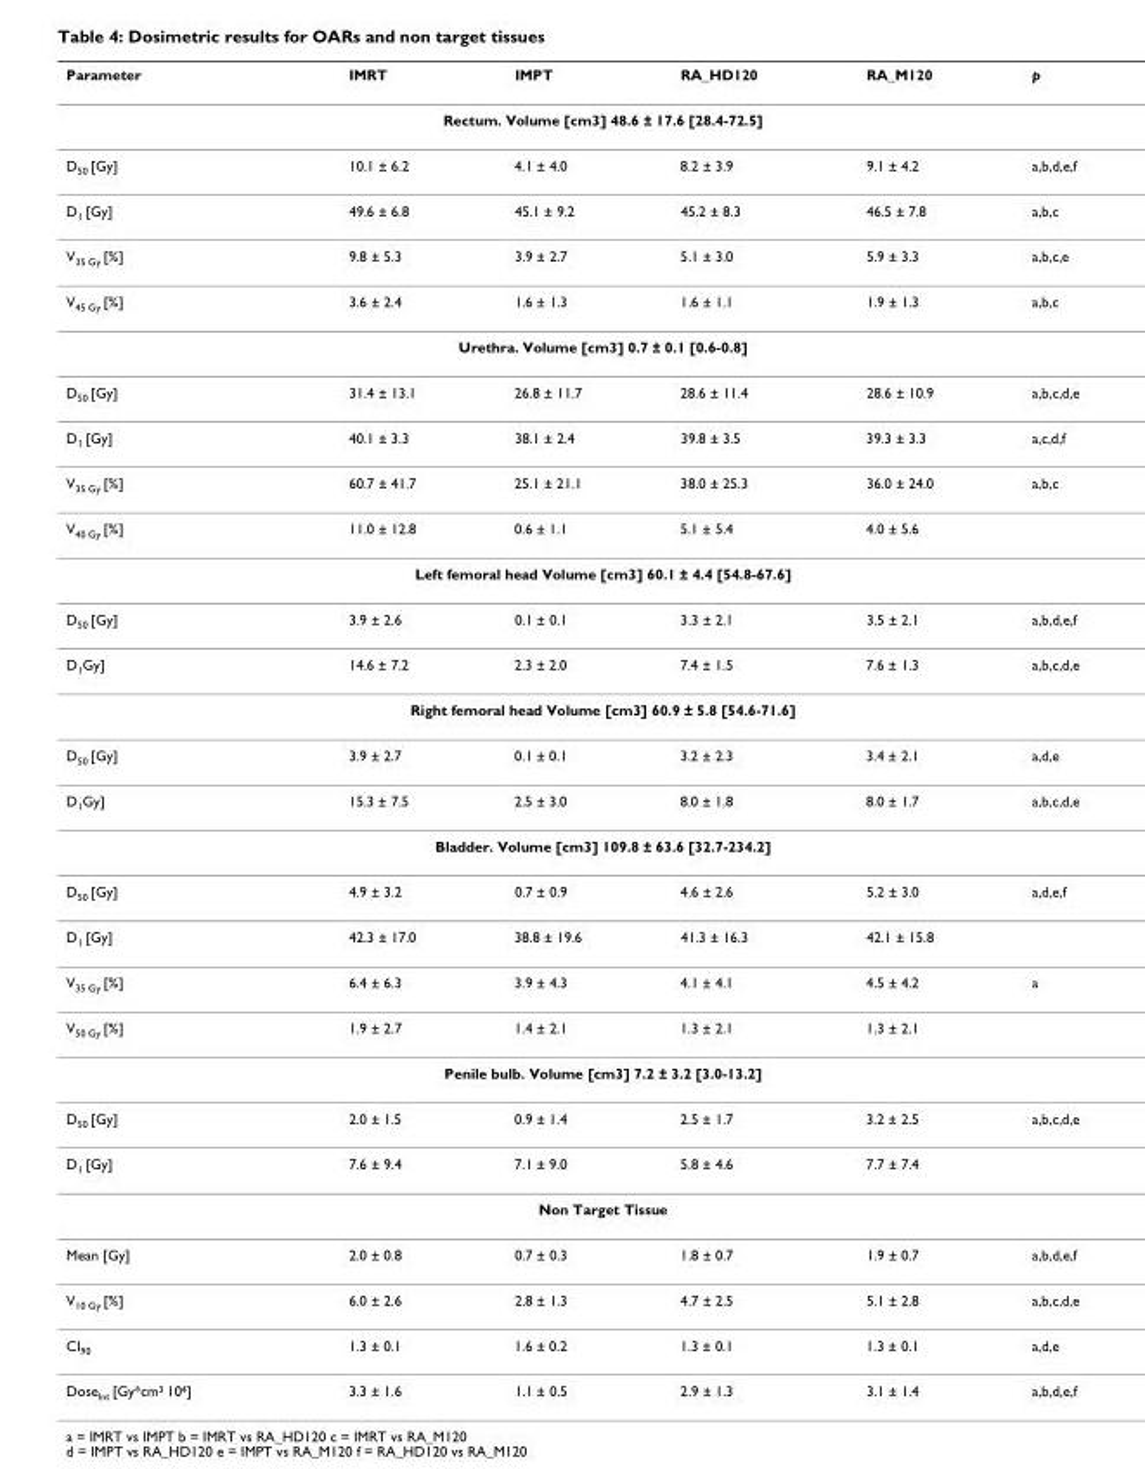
<table><thead><tr><td>Parameter</td><td>IMRT</td><td>IMPT</td><td>RA_HD120</td><td>RA_M120</td><td>p</td></tr></thead><tbody><tr><td colspan="6">Rectum. Volume [cm3] 48.6 ± 17.6 [28.4-72.5]</td></tr><tr><td>D<sub>50</sub> [Gy]</td><td>10.1 ± 6.2</td><td>4.1 ± 4.0</td><td>8.2 ± 3.9</td><td>9.1 ± 4.2</td><td>a,b,d,e,f</td></tr><tr><td>D<sub>1</sub> [Gy]</td><td>49.6 ± 6.8</td><td>45.1 ± 9.2</td><td>45.2 ± 8.3</td><td>46.5 ± 7.8</td><td>a,b,c</td></tr><tr><td>V<sub>35 Gy</sub> [%]</td><td>9.8 ± 5.3</td><td>3.9 ± 2.7</td><td>5.1 ± 3.0</td><td>5.9 ± 3.3</td><td>a,b,c,e</td></tr><tr><td>V<sub>45 Gy</sub> [%]</td><td>3.6 ± 2.4</td><td>1.6 ± 1.3</td><td>1.6 ± 1.1</td><td>1.9 ± 1.3</td><td>a,b,c</td></tr><tr><td colspan="6">Urethra. Volume [cm3] 0.7 ± 0.1 [0.6-0.8]</td></tr><tr><td>D<sub>50</sub> [Gy]</td><td>31.4 ± 13.1</td><td>26.8 ± 11.7</td><td>28.6 ± 11.4</td><td>28.6 ± 10.9</td><td>a,b,c,d,e</td></tr><tr><td>D<sub>1</sub> [Gy]</td><td>40.1 ± 3.3</td><td>38.1 ± 2.4</td><td>39.8 ± 3.5</td><td>39.3 ± 3.3</td><td>a,c,d,f</td></tr><tr><td>V<sub>35 Gy</sub> [%]</td><td>60.7 ± 41.7</td><td>25.1 ± 21.1</td><td>38.0 ± 25.3</td><td>36.0 ± 24.0</td><td>a,b,c</td></tr><tr><td>V<sub>40 Gy</sub> [%]</td><td>11.0 ± 12.8</td><td>0.6 ± 1.1</td><td>5.1 ± 5.4</td><td>4.0 ± 5.6</td><td></td></tr><tr><td colspan="6">Left femoral head Volume [cm3] 60.1 ± 4.4 [54.8-67.6]</td></tr><tr><td>D<sub>50</sub> [Gy]</td><td>3.9 ± 2.6</td><td>0.1 ± 0.1</td><td>3.3 ± 2.1</td><td>3.5 ± 2.1</td><td>a,b,d,e,f</td></tr><tr><td>D<sub>1</sub>Gy]</td><td>14.6 ± 7.2</td><td>2.3 ± 2.0</td><td>7.4 ± 1.5</td><td>7.6 ± 1.3</td><td>a,b,c,d,e</td></tr><tr><td colspan="6">Right femoral head Volume [cm3] 60.9 ± 5.8 [54.6-71.6]</td></tr><tr><td>D<sub>50</sub> [Gy]</td><td>3.9 ± 2.7</td><td>0.1 ± 0.1</td><td>3.2 ± 2.3</td><td>3.4 ± 2.1</td><td>a,d,e</td></tr><tr><td>D<sub>1</sub>Gy]</td><td>15.3 ± 7.5</td><td>2.5 ± 3.0</td><td>8.0 ± 1.8</td><td>8.0 ± 1.7</td><td>a,b,c,d,e</td></tr><tr><td colspan="6">Bladder. Volume [cm3] 109.8 ± 63.6 [32.7-234.2]</td></tr><tr><td>D<sub>50</sub> [Gy]</td><td>4.9 ± 3.2</td><td>0.7 ± 0.9</td><td>4.6 ± 2.6</td><td>5.2 ± 3.0</td><td>a,d,e,f</td></tr><tr><td>D<sub>1</sub> [Gy]</td><td>42.3 ± 17.0</td><td>38.8 ± 19.6</td><td>41.3 ± 16.3</td><td>42.1 ± 15.8</td><td></td></tr><tr><td>V<sub>35 Gy</sub> [%]</td><td>6.4 ± 6.3</td><td>3.9 ± 4.3</td><td>4.1 ± 4.1</td><td>4.5 ± 4.2</td><td>a</td></tr><tr><td>V<sub>50 Gy</sub> [%]</td><td>1.9 ± 2.7</td><td>1.4 ± 2.1</td><td>1.3 ± 2.1</td><td>1.3 ± 2.1</td><td></td></tr><tr><td colspan="6">Penile bulb. Volume [cm3] 7.2 ± 3.2 [3.0-13.2]</td></tr><tr><td>D<sub>50</sub> [Gy]</td><td>2.0 ± 1.5</td><td>0.9 ± 1.4</td><td>2.5 ± 1.7</td><td>3.2 ± 2.5</td><td>a,b,c,d,e</td></tr><tr><td>D<sub>1</sub> [Gy]</td><td>7.6 ± 9.4</td><td>7.1 ± 9.0</td><td>5.8 ± 4.6</td><td>7.7 ± 7.4</td><td></td></tr><tr><td colspan="6">Non Target Tissue</td></tr><tr><td>Mean [Gy]</td><td>2.0 ± 0.8</td><td>0.7 ± 0.3</td><td>1.8 ± 0.7</td><td>1.9 ± 0.7</td><td>a,b,d,e,f</td></tr><tr><td>V<sub>10 Gy</sub> [%]</td><td>6.0 ± 2.6</td><td>2.8 ± 1.3</td><td>4.7 ± 2.5</td><td>5.1 ± 2.8</td><td>a,b,c,d,e</td></tr><tr><td>CI<sub>90</sub></td><td>1.3 ± 0.1</td><td>1.6 ± 0.2</td><td>1.3 ± 0.1</td><td>1.3 ± 0.1</td><td>a,d,e</td></tr><tr><td>Dose<sub>Int</sub> [Gy*cm<sup>3</sup> 10<sup>4</sup>]</td><td>3.3 ± 1.6</td><td>1.1 ± 0.5</td><td>2.9 ± 1.3</td><td>3.1 ± 1.4</td><td>a,b,d,e,f</td></tr></tbody></table>